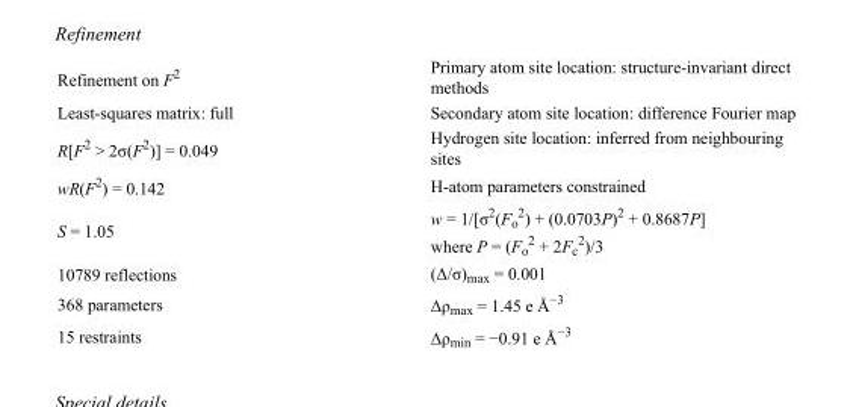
<table><tbody><tr><td>Refinement on F<sup>2</sup></td><td>Primary atom site location: structure-invariant direct methods</td></tr><tr><td>Least-squares matrix: full</td><td>Secondary atom site location: difference Fourier map</td></tr><tr><td>R[F<sup>2</sup> &gt; 2σ(F<sup>2</sup>)] = 0.049</td><td>Hydrogen site location: inferred from neighbouring sites</td></tr><tr><td>wR(F<sup>2</sup>) = 0.142</td><td>H-atom parameters constrained</td></tr><tr><td>S = 1.05</td><td>w = 1/[σ<sup>2</sup>(F<sub>o</sub> <sup>2</sup>) + (0.0703P)<sup>2</sup> + 0.8687P] where P = (F<sub>o</sub> <sup>2</sup> + 2F<sub>c</sub> <sup>2</sup>)/3</td></tr><tr><td>10789 reflections</td><td>(Δ/σ)<sub>max</sub> = 0.001</td></tr><tr><td>368 parameters</td><td>Δρ<sub>max</sub> = 1.45 e Å<sup>−3</sup></td></tr><tr><td>15 restraints</td><td>Δρ<sub>min</sub> = −0.91 e Å<sup>−3</sup></td></tr></tbody></table>